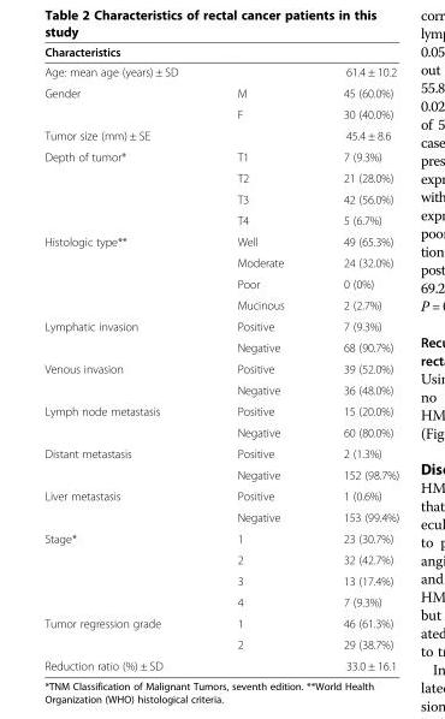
<table><thead><tr><td>Characteristics</td><td></td><td></td></tr></thead><tbody><tr><td>Age: mean age (years) ± SD</td><td></td><td>61.4 ± 10.2</td></tr><tr><td rowspan="2">Gender</td><td>M</td><td>45 (60.0%)</td></tr><tr><td>F</td><td>30 (40.0%)</td></tr><tr><td>Tumor size (mm) ± SE</td><td></td><td>45.4 ± 8.6</td></tr><tr><td rowspan="4">Depth of tumor*</td><td>T1</td><td>7 (9.3%)</td></tr><tr><td>T2</td><td>21 (28.0%)</td></tr><tr><td>T3</td><td>42 (56.0%)</td></tr><tr><td>T4</td><td>5 (6.7%)</td></tr><tr><td rowspan="4">Histologic type**</td><td>Well</td><td>49 (65.3%)</td></tr><tr><td>Moderate</td><td>24 (32.0%)</td></tr><tr><td>Poor</td><td>0 (0%)</td></tr><tr><td>Mucinous</td><td>2 (2.7%)</td></tr><tr><td rowspan="2">Lymphatic invasion</td><td>Positive</td><td>7 (9.3%)</td></tr><tr><td>Negative</td><td>68 (90.7%)</td></tr><tr><td rowspan="2">Venous invasion</td><td>Positive</td><td>39 (52.0%)</td></tr><tr><td>Negative</td><td>36 (48.0%)</td></tr><tr><td rowspan="2">Lymph node metastasis</td><td>Positive</td><td>15 (20.0%)</td></tr><tr><td>Negative</td><td>60 (80.0%)</td></tr><tr><td rowspan="2">Distant metastasis</td><td>Positive</td><td>2 (1.3%)</td></tr><tr><td>Negative</td><td>152 (98.7%)</td></tr><tr><td rowspan="2">Liver metastasis</td><td>Positive</td><td>1 (0.6%)</td></tr><tr><td>Negative</td><td>153 (99.4%)</td></tr><tr><td rowspan="4">Stage*</td><td>1</td><td>23 (30.7%)</td></tr><tr><td>2</td><td>32 (42.7%)</td></tr><tr><td>3</td><td>13 (17.4%)</td></tr><tr><td>4</td><td>7 (9.3%)</td></tr><tr><td rowspan="2">Tumor regression grade</td><td>1</td><td>46 (61.3%)</td></tr><tr><td>2</td><td>29 (38.7%)</td></tr><tr><td>Reduction ratio (%) ± SD</td><td></td><td>33.0 ± 16.1</td></tr></tbody></table>